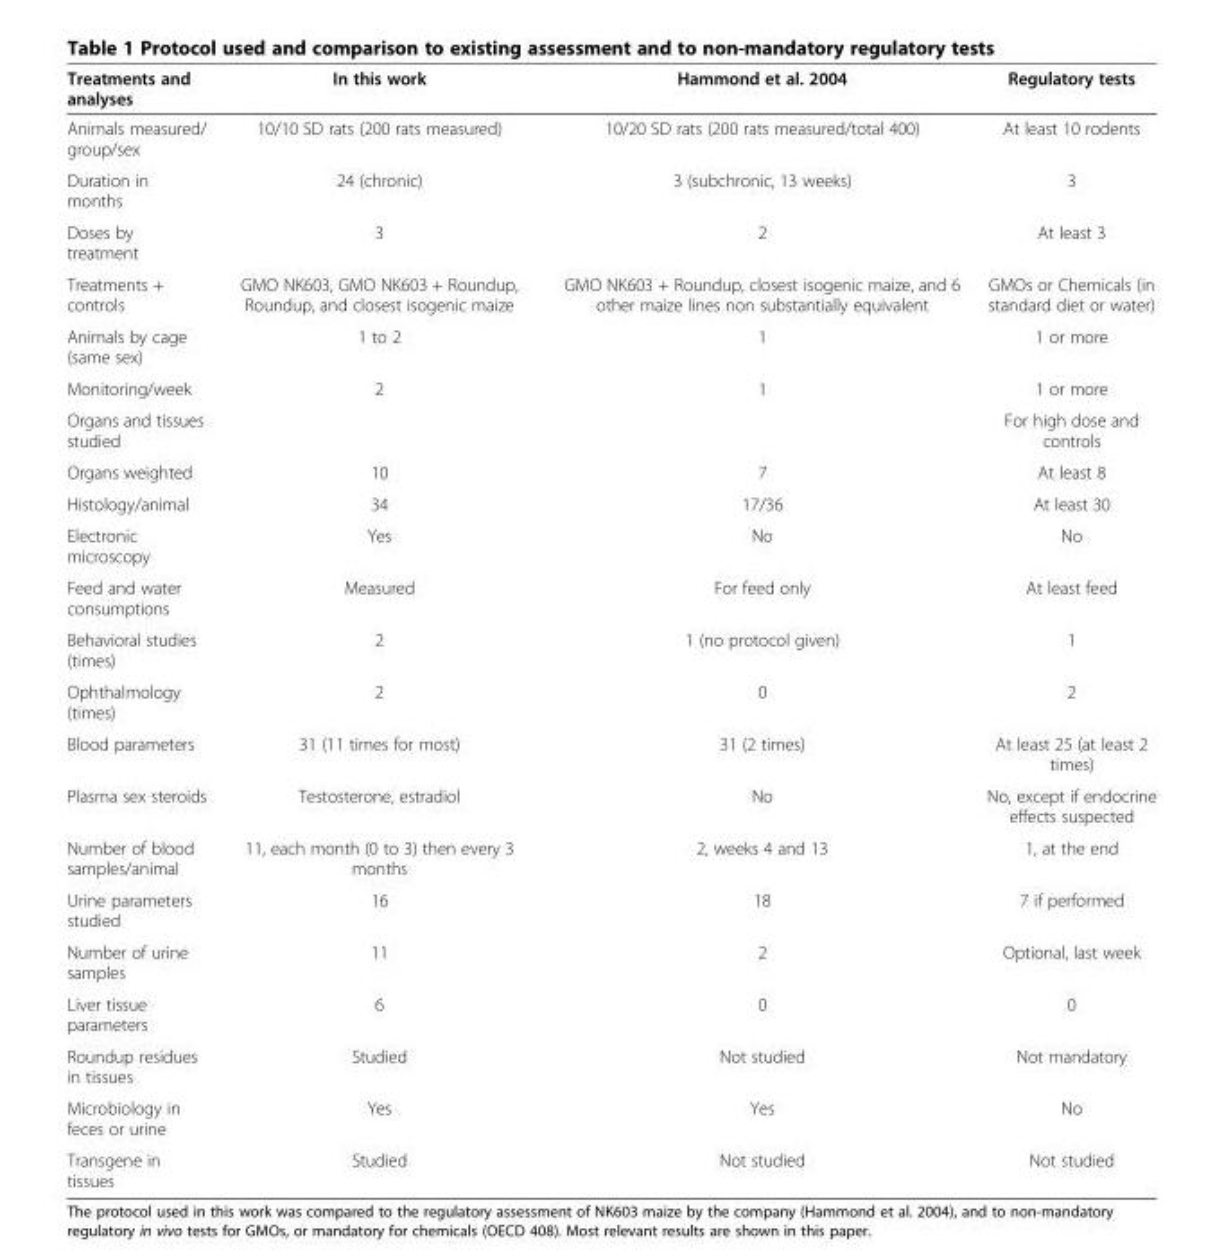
<table><thead><tr><td>Treatments and analyses</td><td>In this work</td><td>Hammond et al. 2004</td><td>Regulatory tests</td></tr></thead><tbody><tr><td>Animals measured/ group/sex</td><td>10/10 SD rats (200 rats measured)</td><td>10/20 SD rats (200 rats measured/total 400)</td><td>At least 10 rodents</td></tr><tr><td>Duration in months</td><td>24 (chronic)</td><td>3 (subchronic, 13 weeks)</td><td>3</td></tr><tr><td>Doses by treatment</td><td>3</td><td>2</td><td>At least 3</td></tr><tr><td>Treatments + controls</td><td>GMO NK603, GMO NK603 + Roundup, Roundup, and closest isogenic maize</td><td>GMO NK603 + Roundup, closest isogenic maize, and 6 other maize lines non substantially equivalent</td><td>GMOs or Chemicals (in standard diet or water)</td></tr><tr><td>Animals by cage (same sex)</td><td>1 to 2</td><td>1</td><td>1 or more</td></tr><tr><td>Monitoring/week</td><td>2</td><td>1</td><td>1 or more</td></tr><tr><td>Organs and tissues studied</td><td></td><td></td><td>For high dose and controls</td></tr><tr><td>Organs weighted</td><td>10</td><td>7</td><td>At least 8</td></tr><tr><td>Histology/animal</td><td>34</td><td>17/36</td><td>At least 30</td></tr><tr><td>Electronic microscopy</td><td>Yes</td><td>No</td><td>No</td></tr><tr><td>Feed and water consumptions</td><td>Measured</td><td>For feed only</td><td>At least feed</td></tr><tr><td>Behavioral studies (times)</td><td>2</td><td>1 (no protocol given)</td><td>1</td></tr><tr><td>Ophthalmology (times)</td><td>2</td><td>0</td><td>2</td></tr><tr><td>Blood parameters</td><td>31 (11 times for most)</td><td>31 (2 times)</td><td>At least 25 (at least 2 times)</td></tr><tr><td>Plasma sex steroids</td><td>Testosterone, estradiol</td><td>No</td><td>No, except if endocrine effects suspected</td></tr><tr><td>Number of blood samples/animal</td><td>11, each month (0 to 3) then every 3 months</td><td>2, weeks 4 and 13</td><td>1, at the end</td></tr><tr><td>Urine parameters studied</td><td>16</td><td>18</td><td>7 if performed</td></tr><tr><td>Number of urine samples</td><td>11</td><td>2</td><td>Optional, last week</td></tr><tr><td>Liver tissue parameters</td><td>6</td><td>0</td><td>0</td></tr><tr><td>Roundup residues in tissues</td><td>Studied</td><td>Not studied</td><td>Not mandatory</td></tr><tr><td>Microbiology in feces or urine</td><td>Yes</td><td>Yes</td><td>No</td></tr><tr><td>Transgene in tissues</td><td>Studied</td><td>Not studied</td><td>Not studied</td></tr></tbody></table>